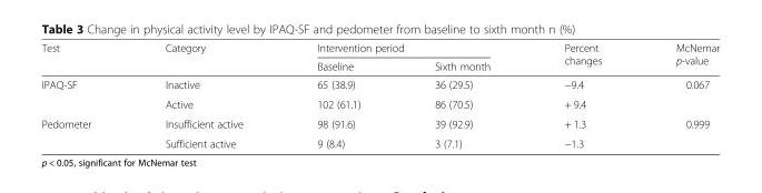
<table><thead><tr><td rowspan="2">Test</td><td rowspan="2">Category</td><td colspan="2">Intervention period</td><td rowspan="2">Percent changes</td><td rowspan="2">McNemar p-value</td></tr><tr><td>Baseline</td><td>Sixth month</td></tr></thead><tbody><tr><td rowspan="2">IPAQ-SF</td><td>Inactive</td><td>65 (38.9)</td><td>36 (29.5)</td><td>−9.4</td><td rowspan="2">0.067</td></tr><tr><td>Active</td><td>102 (61.1)</td><td>86 (70.5)</td><td>+ 9.4</td></tr><tr><td rowspan="2">Pedometer</td><td>Insufficient active</td><td>98 (91.6)</td><td>39 (92.9)</td><td>+ 1.3</td><td rowspan="2">0.999</td></tr><tr><td>Sufficient active</td><td>9 (8.4)</td><td>3 (7.1)</td><td>−1.3</td></tr></tbody></table>